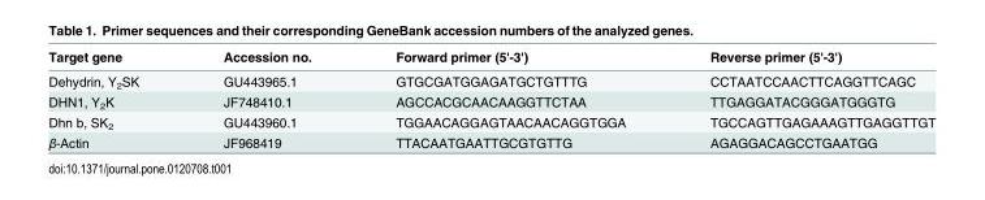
<table><thead><tr><td>Target gene</td><td>Accession no.</td><td>Forward primer (5&#x27;-3&#x27;)</td><td>Reverse primer (5&#x27;-3&#x27;)</td></tr></thead><tbody><tr><td>Dehydrin, Y<sub>2</sub>SK</td><td>GU443965.1</td><td>GTGCGATGGAGATGCTGTTTG</td><td>CCTAATCCAACTTCAGGTTCAGC</td></tr><tr><td>DHN1, Y<sub>2</sub>K</td><td>JF748410.1</td><td>AGCCACGCAACAAGGTTCTAA</td><td>TTGAGGATACGGGATGGGTG</td></tr><tr><td>Dhn b, SK<sub>2</sub></td><td>GU443960.1</td><td>TGGAACAGGAGTAACAACAGGTGGA</td><td>TGCCAGTTGAGAAAGTTGAGGTTGT</td></tr><tr><td>β-Actin</td><td>JF968419</td><td>TTACAATGAATTGCGTGTTG</td><td>AGAGGACAGCCTGAATGG</td></tr></tbody></table>